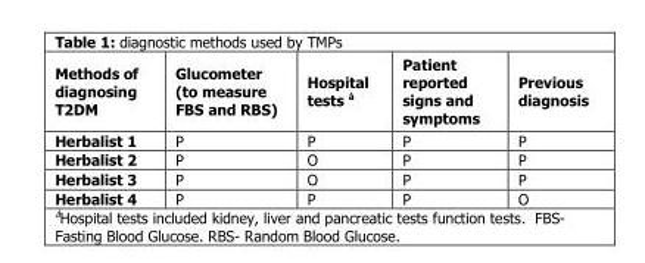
<table><thead><tr><td>Methods of diagnosing T2DM</td><td>Glucometer (to measure FBS and RBS)</td><td>Hospital tests <sup>à</sup></td><td>Patient reported signs and symptoms</td><td>Previous diagnosis</td></tr></thead><tbody><tr><td>Herbalist 1</td><td>P</td><td>P</td><td>P</td><td>P</td></tr><tr><td>Herbalist 2</td><td>P</td><td>O</td><td>P</td><td>P</td></tr><tr><td>Herbalist 3</td><td>P</td><td>O</td><td>P</td><td>P</td></tr><tr><td>Herbalist 4</td><td>P</td><td>P</td><td>P</td><td>O</td></tr></tbody></table>